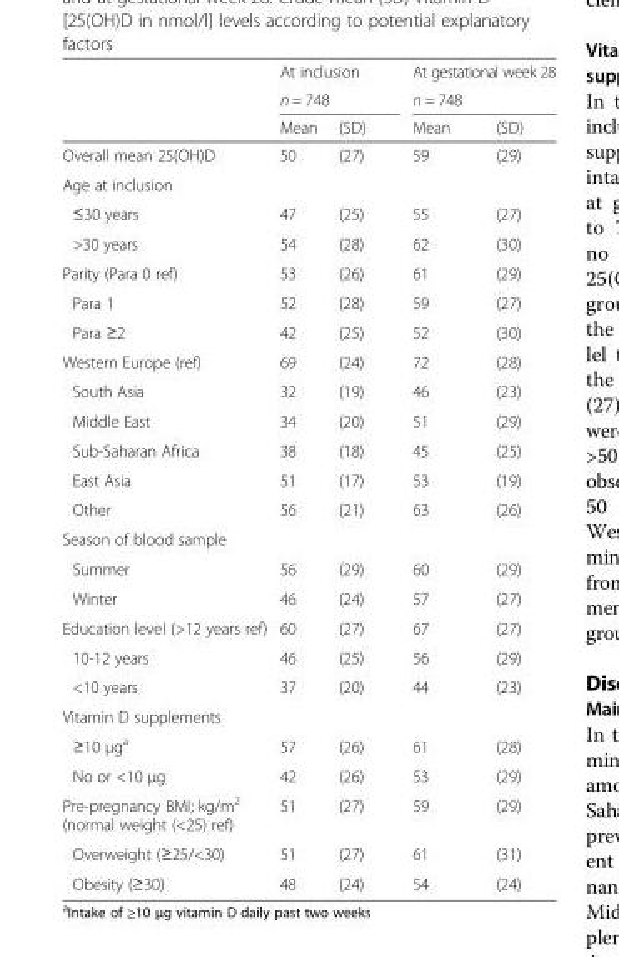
<table><thead><tr><td rowspan="3"></td><td rowspan="2" colspan="2">At inclusion n = 748</td><td rowspan="2" colspan="2">At gestational week 28 n = 748</td></tr><tr></tr><tr><td>Mean</td><td>(SD)</td><td>Mean</td><td>(SD)</td></tr></thead><tbody><tr><td>Overall mean 25(OH)D</td><td>50</td><td>(27)</td><td>59</td><td>(29)</td></tr><tr><td colspan="5">Age at inclusion</td></tr><tr><td>≤30 years</td><td>47</td><td>(25)</td><td>55</td><td>(27)</td></tr><tr><td>&gt;30 years</td><td>54</td><td>(28)</td><td>62</td><td>(30)</td></tr><tr><td>Parity (Para 0 ref)</td><td>53</td><td>(26)</td><td>61</td><td>(29)</td></tr><tr><td>Para 1</td><td>52</td><td>(28)</td><td>59</td><td>(27)</td></tr><tr><td>Para ≥2</td><td>42</td><td>(25)</td><td>52</td><td>(30)</td></tr><tr><td>Western Europe (ref)</td><td>69</td><td>(24)</td><td>72</td><td>(28)</td></tr><tr><td>South Asia</td><td>32</td><td>(19)</td><td>46</td><td>(23)</td></tr><tr><td>Middle East</td><td>34</td><td>(20)</td><td>51</td><td>(29)</td></tr><tr><td>Sub-Saharan Africa</td><td>38</td><td>(18)</td><td>45</td><td>(25)</td></tr><tr><td>East Asia</td><td>51</td><td>(17)</td><td>53</td><td>(19)</td></tr><tr><td>Other</td><td>56</td><td>(21)</td><td>63</td><td>(26)</td></tr><tr><td colspan="5">Season of blood sample</td></tr><tr><td>Summer</td><td>56</td><td>(29)</td><td>60</td><td>(29)</td></tr><tr><td>Winter</td><td>46</td><td>(24)</td><td>57</td><td>(27)</td></tr><tr><td>Education level (&gt;12 years ref)</td><td>60</td><td>(27)</td><td>67</td><td>(27)</td></tr><tr><td>10-12 years</td><td>46</td><td>(25)</td><td>56</td><td>(29)</td></tr><tr><td>&lt;10 years</td><td>37</td><td>(20)</td><td>44</td><td>(23)</td></tr><tr><td colspan="5">Vitamin D supplements</td></tr><tr><td>≥10 μg<sup>a</sup></td><td>57</td><td>(26)</td><td>61</td><td>(28)</td></tr><tr><td>No or &lt;10 μg</td><td>42</td><td>(26)</td><td>53</td><td>(29)</td></tr><tr><td>Pre-pregnancy BMI; kg/m<sup>2</sup> (normal weight (&lt;25) ref)</td><td>51</td><td>(27)</td><td>59</td><td>(29)</td></tr><tr><td>Overweight (≥25/&lt;30)</td><td>51</td><td>(27)</td><td>61</td><td>(31)</td></tr><tr><td>Obesity (≥30)</td><td>48</td><td>(24)</td><td>54</td><td>(24)</td></tr></tbody></table>